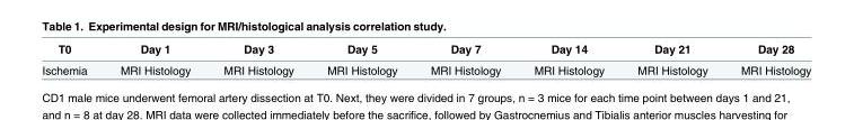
<table><thead><tr><td>T0</td><td>Day 1</td><td>Day 3</td><td>Day 5</td><td>Day 7</td><td>Day 14</td><td>Day 21</td><td>Day 28</td></tr></thead><tbody><tr><td>Ischemia</td><td>MRI Histology</td><td>MRI Histology</td><td>MRI Histology</td><td>MRI Histology</td><td>MRI Histology</td><td>MRI Histology</td><td>MRI Histology</td></tr></tbody></table>